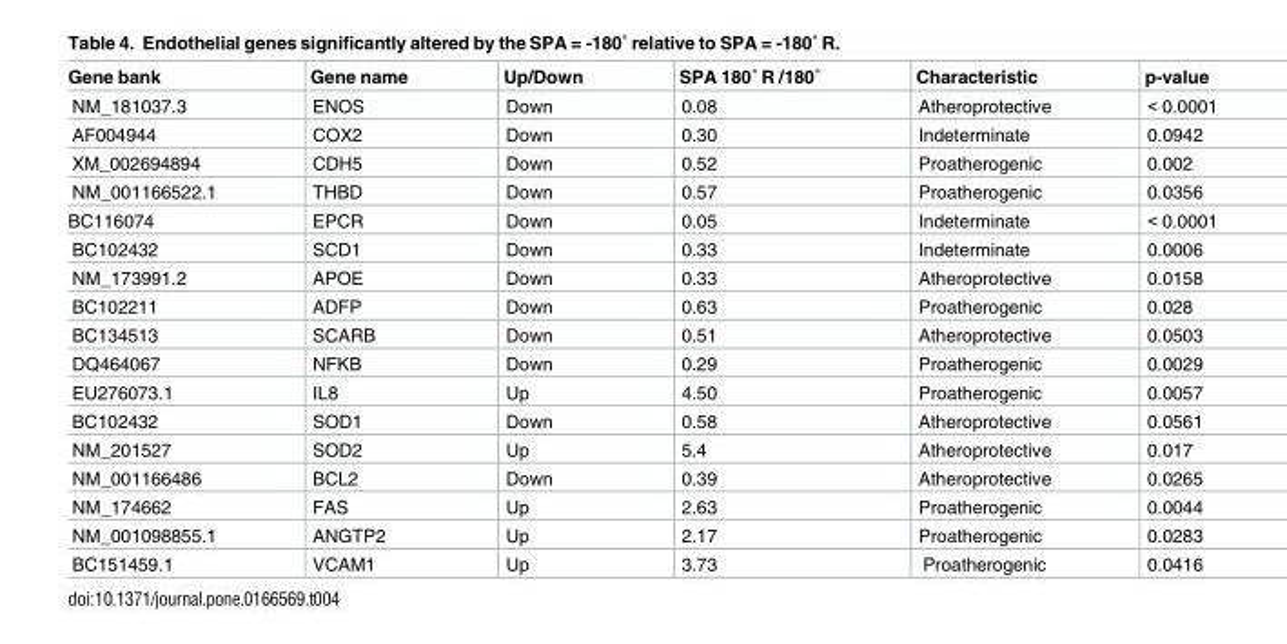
<table><thead><tr><td>Gene bank</td><td>Gene name</td><td>Up/Down</td><td>SPA 180˚ R /180˚</td><td>Characteristic</td><td>p-value</td></tr></thead><tbody><tr><td>NM_181037.3</td><td>ENOS</td><td>Down</td><td>0.08</td><td>Atheroprotective</td><td>&lt; 0.0001</td></tr><tr><td>AF004944</td><td>COX2</td><td>Down</td><td>0.30</td><td>Indeterminate</td><td>0.0942</td></tr><tr><td>XM_002694894</td><td>CDH5</td><td>Down</td><td>0.52</td><td>Proatherogenic</td><td>0.002</td></tr><tr><td>NM_001166522.1</td><td>THBD</td><td>Down</td><td>0.57</td><td>Proatherogenic</td><td>0.0356</td></tr><tr><td>BC116074</td><td>EPCR</td><td>Down</td><td>0.05</td><td>Indeterminate</td><td>&lt; 0.0001</td></tr><tr><td>BC102432</td><td>SCD1</td><td>Down</td><td>0.33</td><td>Indeterminate</td><td>0.0006</td></tr><tr><td>NM_173991.2</td><td>APOE</td><td>Down</td><td>0.33</td><td>Atheroprotective</td><td>0.0158</td></tr><tr><td>BC102211</td><td>ADFP</td><td>Down</td><td>0.63</td><td>Proatherogenic</td><td>0.028</td></tr><tr><td>BC134513</td><td>SCARB</td><td>Down</td><td>0.51</td><td>Atheroprotective</td><td>0.0503</td></tr><tr><td>DQ464067</td><td>NFKB</td><td>Down</td><td>0.29</td><td>Proatherogenic</td><td>0.0029</td></tr><tr><td>EU276073.1</td><td>IL8</td><td>Up</td><td>4.50</td><td>Proatherogenic</td><td>0.0057</td></tr><tr><td>BC102432</td><td>SOD1</td><td>Down</td><td>0.58</td><td>Atheroprotective</td><td>0.0561</td></tr><tr><td>NM_201527</td><td>SOD2</td><td>Up</td><td>5.4</td><td>Atheroprotective</td><td>0.017</td></tr><tr><td>NM_001166486</td><td>BCL2</td><td>Down</td><td>0.39</td><td>Atheroprotective</td><td>0.0265</td></tr><tr><td>NM_174662</td><td>FAS</td><td>Up</td><td>2.63</td><td>Proatherogenic</td><td>0.0044</td></tr><tr><td>NM_001098855.1</td><td>ANGTP2</td><td>Up</td><td>2.17</td><td>Proatherogenic</td><td>0.0283</td></tr><tr><td>BC151459.1</td><td>VCAM1</td><td>Up</td><td>3.73</td><td>Proatherogenic</td><td>0.0416</td></tr></tbody></table>